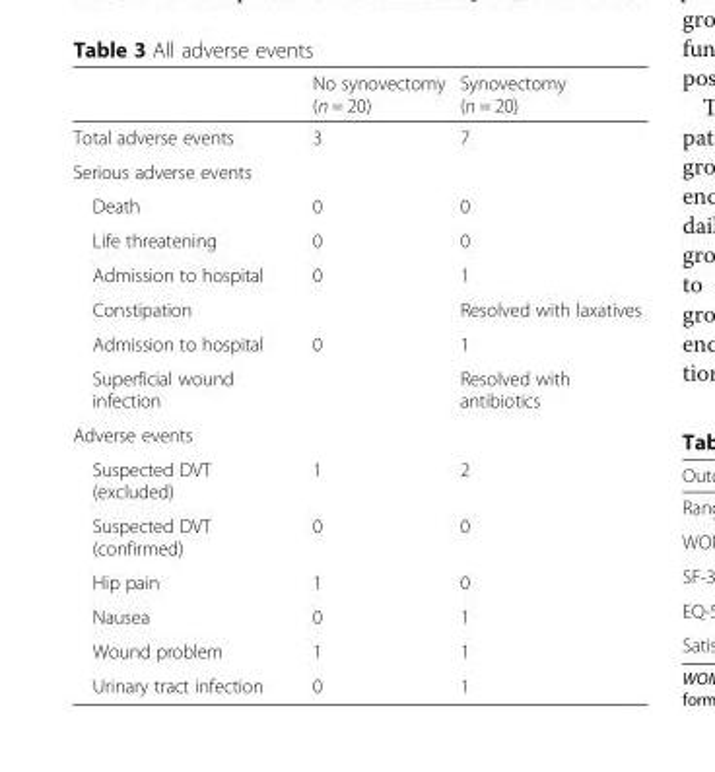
<table><thead><tr><td></td><td>No synovectomy (n = 20)</td><td>Synovectomy (n = 20)</td></tr></thead><tbody><tr><td>Total adverse events</td><td>3</td><td>7</td></tr><tr><td colspan="3">Serious adverse events</td></tr><tr><td>Death</td><td>0</td><td>0</td></tr><tr><td>Life threatening</td><td>0</td><td>0</td></tr><tr><td>Admission to hospital</td><td>0</td><td>1</td></tr><tr><td>Constipation</td><td></td><td>Resolved with laxatives</td></tr><tr><td>Admission to hospital</td><td>0</td><td>1</td></tr><tr><td>Superficial wound infection</td><td></td><td>Resolved with antibiotics</td></tr><tr><td colspan="3">Adverse events</td></tr><tr><td>Suspected DVT (excluded)</td><td>1</td><td>2</td></tr><tr><td>Suspected DVT (confirmed)</td><td>0</td><td>0</td></tr><tr><td>Hip pain</td><td>1</td><td>0</td></tr><tr><td>Nausea</td><td>0</td><td>1</td></tr><tr><td>Wound problem</td><td>1</td><td>1</td></tr><tr><td>Urinary tract infection</td><td>0</td><td>1</td></tr></tbody></table>